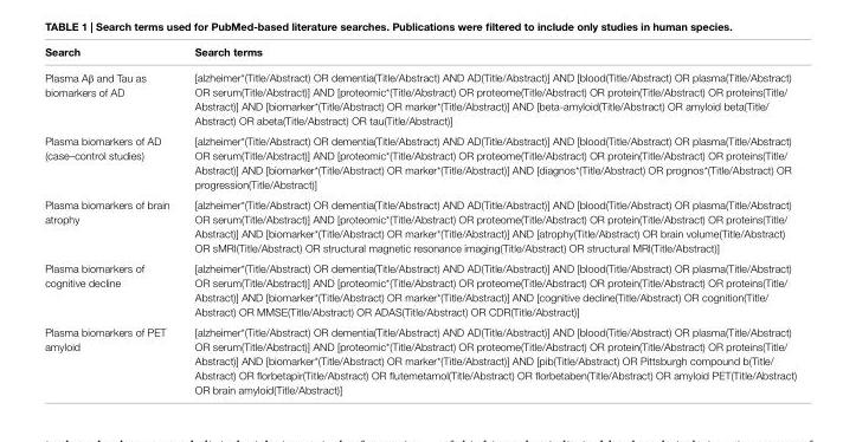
<table><thead><tr><td>Search</td><td>Search terms</td></tr></thead><tbody><tr><td>Plasma Aβ and Tau as biomarkers of AD</td><td>[alzheimer*(Title/Abstract) OR dementia(Title/Abstract) AND AD(Title/Abstract)] AND [blood(Title/Abstract) OR plasma(Title/Abstract) OR serum(Title/Abstract)] AND [proteomic*(Title/Abstract) OR proteome(Title/Abstract) OR protein(Title/Abstract) OR proteins(Title/ Abstract)] AND [biomarker*(Title/Abstract) OR marker*(Title/Abstract)] AND [beta-amyloid(Title/Abstract) OR amyloid beta(Title/ Abstract) OR abeta(Title/Abstract) OR tau(Title/Abstract)]</td></tr><tr><td>Plasma biomarkers of AD (case–control studies)</td><td>[alzheimer*(Title/Abstract) OR dementia(Title/Abstract) AND AD(Title/Abstract)] AND [blood(Title/Abstract) OR plasma(Title/Abstract) OR serum(Title/Abstract)] AND [proteomic*(Title/Abstract) OR proteome(Title/Abstract) OR protein(Title/Abstract) OR proteins(Title/ Abstract)] AND [biomarker*(Title/Abstract) OR marker*(Title/Abstract)] AND [diagnos*(Title/Abstract) OR prognos*(Title/Abstract) OR progression(Title/Abstract)]</td></tr><tr><td>Plasma biomarkers of brain atrophy</td><td>[alzheimer*(Title/Abstract) OR dementia(Title/Abstract) AND AD(Title/Abstract)] AND [blood(Title/Abstract) OR plasma(Title/Abstract) OR serum(Title/Abstract)] AND [proteomic*(Title/Abstract) OR proteome(Title/Abstract) OR protein(Title/Abstract) OR proteins(Title/ Abstract)] AND [biomarker*(Title/Abstract) OR marker*(Title/Abstract)] AND [atrophy(Title/Abstract) OR brain volume(Title/Abstract) OR sMRI(Title/Abstract) OR structural magnetic resonance imaging(Title/Abstract) OR structural MRI(Title/Abstract)]</td></tr><tr><td>Plasma biomarkers of cognitive decline</td><td>[alzheimer*(Title/Abstract) OR dementia(Title/Abstract) AND AD(Title/Abstract)] AND [blood(Title/Abstract) OR plasma(Title/Abstract) OR serum(Title/Abstract)] AND [proteomic*(Title/Abstract) OR proteome(Title/Abstract) OR protein(Title/Abstract) OR proteins(Title/ Abstract)] AND [biomarker*(Title/Abstract) OR marker*(Title/Abstract)] AND [cognitive decline(Title/Abstract) OR cognition(Title/ Abstract) OR MMSE(Title/Abstract) OR ADAS(Title/Abstract) OR CDR(Title/Abstract)]</td></tr><tr><td>Plasma biomarkers of PET amyloid</td><td>[alzheimer*(Title/Abstract) OR dementia(Title/Abstract) AND AD(Title/Abstract)] AND [blood(Title/Abstract) OR plasma(Title/Abstract) OR serum(Title/Abstract)] AND [proteomic*(Title/Abstract) OR proteome(Title/Abstract) OR protein(Title/Abstract) OR proteins(Title/ Abstract)] AND [biomarker*(Title/Abstract) OR marker*(Title/Abstract)] AND [pib(Title/Abstract) OR Pittsburgh compound b(Title/ Abstract) OR florbetapir(Title/Abstract) OR flutemetamol(Title/Abstract) OR florbetaben(Title/Abstract) OR amyloid PET(Title/Abstract) OR brain amyloid(Title/Abstract)]</td></tr></tbody></table>